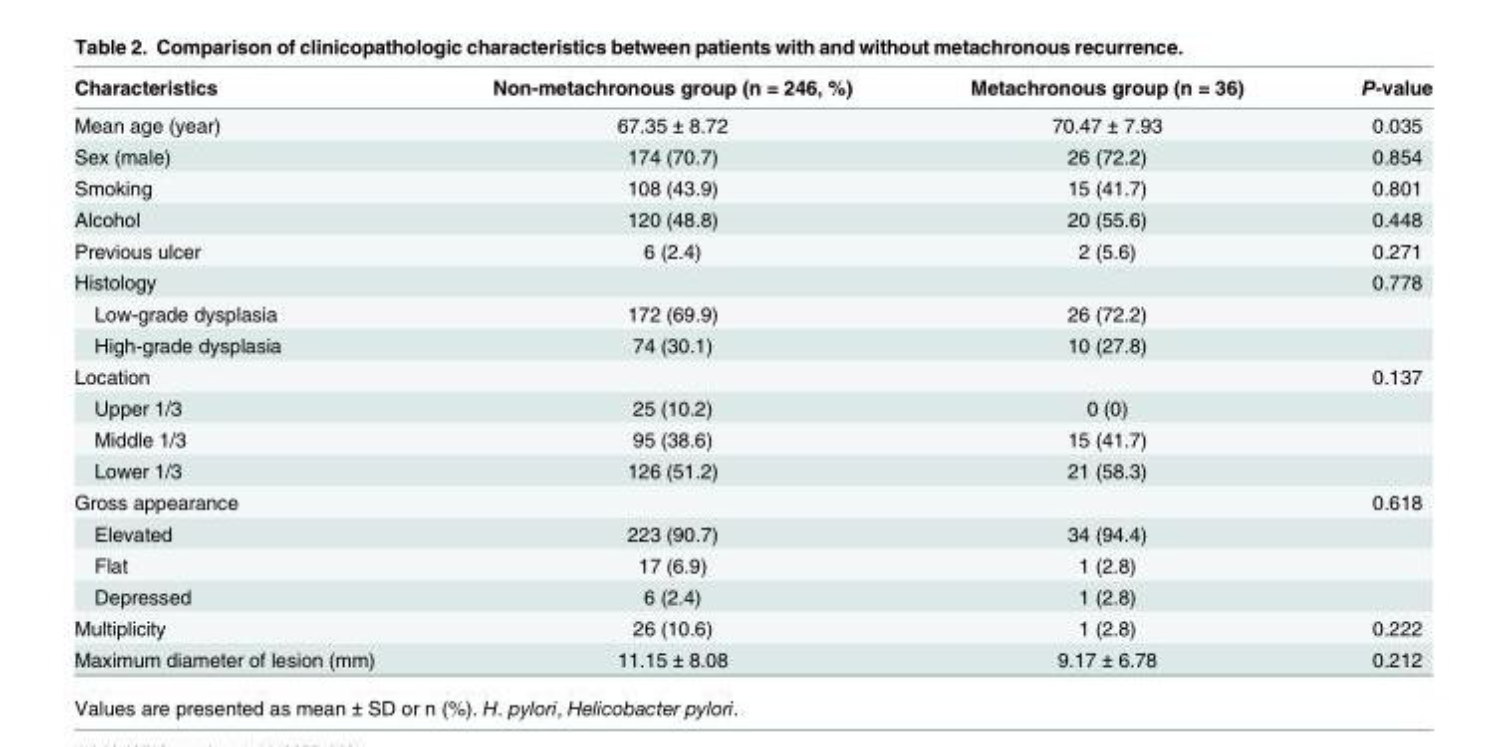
<table><thead><tr><td>Characteristics</td><td>Non-metachronous group (n = 246, %)</td><td>Metachronous group (n = 36)</td><td>P-value</td></tr></thead><tbody><tr><td>Mean age (year)</td><td>67.35 ± 8.72</td><td>70.47 ± 7.93</td><td>0.035</td></tr><tr><td>Sex (male)</td><td>174 (70.7)</td><td>26 (72.2)</td><td>0.854</td></tr><tr><td>Smoking</td><td>108 (43.9)</td><td>15 (41.7)</td><td>0.801</td></tr><tr><td>Alcohol</td><td>120 (48.8)</td><td>20 (55.6)</td><td>0.448</td></tr><tr><td>Previous ulcer</td><td>6 (2.4)</td><td>2 (5.6)</td><td>0.271</td></tr><tr><td>Histology</td><td></td><td></td><td>0.778</td></tr><tr><td>Low-grade dysplasia</td><td>172 (69.9)</td><td>26 (72.2)</td><td></td></tr><tr><td>High-grade dysplasia</td><td>74 (30.1)</td><td>10 (27.8)</td><td></td></tr><tr><td>Location</td><td></td><td></td><td>0.137</td></tr><tr><td>Upper 1/3</td><td>25 (10.2)</td><td>0 (0)</td><td></td></tr><tr><td>Middle 1/3</td><td>95 (38.6)</td><td>15 (41.7)</td><td></td></tr><tr><td>Lower 1/3</td><td>126 (51.2)</td><td>21 (58.3)</td><td></td></tr><tr><td>Gross appearance</td><td></td><td></td><td>0.618</td></tr><tr><td>Elevated</td><td>223 (90.7)</td><td>34 (94.4)</td><td></td></tr><tr><td>Flat</td><td>17 (6.9)</td><td>1 (2.8)</td><td></td></tr><tr><td>Depressed</td><td>6 (2.4)</td><td>1 (2.8)</td><td></td></tr><tr><td>Multiplicity</td><td>26 (10.6)</td><td>1 (2.8)</td><td>0.222</td></tr><tr><td>Maximum diameter of lesion (mm)</td><td>11.15 ± 8.08</td><td>9.17 ± 6.78</td><td>0.212</td></tr></tbody></table>